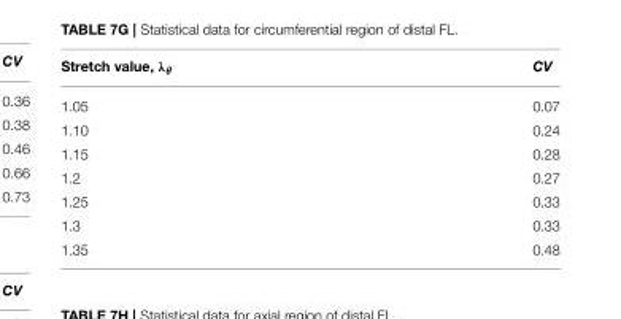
<table><thead><tr><td>Stretch value, λ<sub>θ</sub></td><td>CV</td></tr></thead><tbody><tr><td>1.05</td><td>0.07</td></tr><tr><td>1.10</td><td>0.24</td></tr><tr><td>1.15</td><td>0.28</td></tr><tr><td>1.2</td><td>0.27</td></tr><tr><td>1.25</td><td>0.33</td></tr><tr><td>1.3</td><td>0.33</td></tr><tr><td>1.35</td><td>0.48</td></tr></tbody></table>